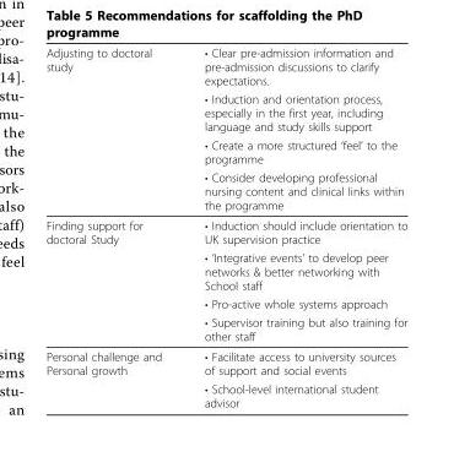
<table><thead><tr><td rowspan="4">Adjusting to doctoral study</td><td rowspan="4">• Clear pre-admission information and pre-admission discussions to clarify expectations. • Induction and orientation process, especially in the first year, including language and study skills support • Create a more structured ‘feel’ to the programme • Consider developing professional nursing content and clinical links within the programme</td></tr><tr></tr><tr></tr><tr></tr></thead><tbody><tr><td rowspan="4">Finding support for doctoral Study</td><td>• Induction should include orientation to UK supervision practice</td></tr><tr><td>• ‘Integrative events’ to develop peer networks &amp; better networking with School staff</td></tr><tr><td>• Pro-active whole systems approach</td></tr><tr><td>• Supervisor training but also training for other staff</td></tr><tr><td rowspan="2">Personal challenge and Personal growth</td><td>• Facilitate access to university sources of support and social events</td></tr><tr><td>• School-level international student advisor</td></tr></tbody></table>